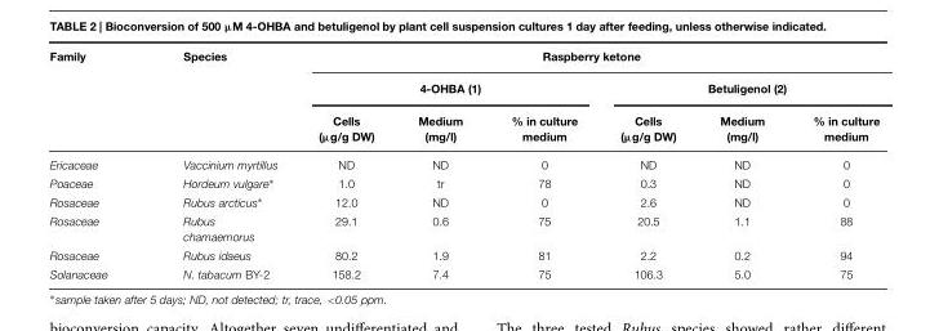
<table><thead><tr><td rowspan="3">Family</td><td rowspan="3">Species</td><td></td><td colspan="4">Raspberry ketone</td><td></td></tr><tr><td colspan="3">4-OHBA (1)</td><td colspan="3">Betuligenol (2)</td></tr><tr><td>Cells (µg/g DW)</td><td>Medium (mg/l)</td><td>% in culture medium</td><td>Cells (µg/g DW)</td><td>Medium (mg/l)</td><td>% in culture medium</td></tr></thead><tbody><tr><td>Ericaceae</td><td>Vaccinium myrtillus</td><td>ND</td><td>ND</td><td>0</td><td>ND</td><td>ND</td><td>0</td></tr><tr><td>Poaceae</td><td>Hordeum vulgare∗</td><td>1.0</td><td>tr</td><td>78</td><td>0.3</td><td>ND</td><td>0</td></tr><tr><td>Rosaceae</td><td>Rubus arcticus∗</td><td>12.0</td><td>ND</td><td>0</td><td>2.6</td><td>ND</td><td>0</td></tr><tr><td>Rosaceae</td><td>Rubus chamaemorus</td><td>29.1</td><td>0.6</td><td>75</td><td>20.5</td><td>1.1</td><td>88</td></tr><tr><td>Rosaceae</td><td>Rubus idaeus</td><td>80.2</td><td>1.9</td><td>81</td><td>2.2</td><td>0.2</td><td>94</td></tr><tr><td>Solanaceae</td><td>N. tabacum BY-2</td><td>158.2</td><td>7.4</td><td>75</td><td>106.3</td><td>5.0</td><td>75</td></tr></tbody></table>